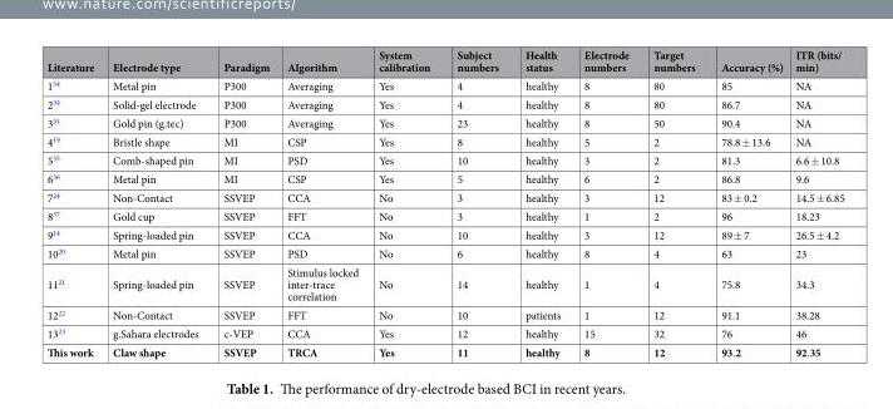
<table><thead><tr><td>Literature</td><td>Electrode type</td><td>Paradigm</td><td>Algorithm</td><td>System calibration</td><td>Subject numbers</td><td>Health status</td><td>Electrode numbers</td><td>Target numbers</td><td>Accuracy (%)</td><td>ITR (bits/ min)</td></tr></thead><tbody><tr><td>1<sup>34</sup></td><td>Metal pin</td><td>P300</td><td>Averaging</td><td>Yes</td><td>4</td><td>healthy</td><td>8</td><td>80</td><td>85</td><td>NA</td></tr><tr><td>2<sup>34</sup></td><td>Solid-gel electrode</td><td>P300</td><td>Averaging</td><td>Yes</td><td>4</td><td>healthy</td><td>8</td><td>80</td><td>86.7</td><td>NA</td></tr><tr><td>3<sup>31</sup></td><td>Gold pin (g.tec)</td><td>P300</td><td>Averaging</td><td>Yes</td><td>23</td><td>healthy</td><td>8</td><td>50</td><td>90.4</td><td>NA</td></tr><tr><td>4<sup>19</sup></td><td>Bristle shape</td><td>MI</td><td>CSP</td><td>Yes</td><td>8</td><td>healthy</td><td>5</td><td>2</td><td>78.8 ± 13.6</td><td>NA</td></tr><tr><td>5<sup>35</sup></td><td>Comb-shaped pin</td><td>MI</td><td>PSD</td><td>Yes</td><td>10</td><td>healthy</td><td>3</td><td>2</td><td>81.3</td><td>6.6 ± 10.8</td></tr><tr><td>6<sup>36</sup></td><td>Metal pin</td><td>MI</td><td>CSP</td><td>Yes</td><td>5</td><td>healthy</td><td>6</td><td>2</td><td>86.8</td><td>9.6</td></tr><tr><td>7<sup>24</sup></td><td>Non-Contact</td><td>SSVEP</td><td>CCA</td><td>No</td><td>3</td><td>healthy</td><td>3</td><td>12</td><td>83 ± 0.2</td><td>14.5 ± 6.85</td></tr><tr><td>8<sup>37</sup></td><td>Gold cup</td><td>SSVEP</td><td>FFT</td><td>No</td><td>3</td><td>healthy</td><td>1</td><td>2</td><td>96</td><td>18.23</td></tr><tr><td>9<sup>14</sup></td><td>Spring-loaded pin</td><td>SSVEP</td><td>CCA</td><td>No</td><td>10</td><td>healthy</td><td>3</td><td>12</td><td>89 ± 7</td><td>26.5 ± 4.2</td></tr><tr><td>10<sup>20</sup></td><td>Metal pin</td><td>SSVEP</td><td>PSD</td><td>No</td><td>6</td><td>healthy</td><td>8</td><td>4</td><td>63</td><td>23</td></tr><tr><td>11<sup>21</sup></td><td>Spring-loaded pin</td><td>SSVEP</td><td>Stimulus locked inter-trace correlation</td><td>No</td><td>14</td><td>healthy</td><td>1</td><td>4</td><td>75.8</td><td>34.3</td></tr><tr><td>12<sup>22</sup></td><td>Non-Contact</td><td>SSVEP</td><td>FFT</td><td>No</td><td>10</td><td>patients</td><td>1</td><td>12</td><td>91.1</td><td>38.28</td></tr><tr><td>13<sup>23</sup></td><td>g.Sahara electrodes</td><td>c-VEP</td><td>CCA</td><td>Yes</td><td>12</td><td>healthy</td><td>15</td><td>32</td><td>76</td><td>46</td></tr><tr><td>This work</td><td>Claw shape</td><td>SSVEP</td><td>TRCA</td><td>Yes</td><td>11</td><td>healthy</td><td>8</td><td>12</td><td>93.2</td><td>92.35</td></tr></tbody></table>